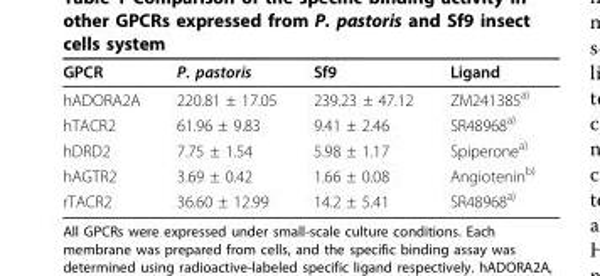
<table><thead><tr><td>GPCR</td><td>P. pastoris</td><td>Sf9</td><td>Ligand</td></tr></thead><tbody><tr><td>hADORA2A</td><td>220.81 ± 17.05</td><td>239.23 ± 47.12</td><td>ZM241385<sup>a)</sup></td></tr><tr><td>hTACR2</td><td>61.96 ± 9.83</td><td>9.41 ± 2.46</td><td>SR48968<sup>a)</sup></td></tr><tr><td>hDRD2</td><td>7.75 ± 1.54</td><td>5.98 ± 1.17</td><td>Spiperone<sup>a)</sup></td></tr><tr><td>hAGTR2</td><td>3.69 ± 0.42</td><td>1.66 ± 0.08</td><td>Angiotenin<sup>b)</sup></td></tr><tr><td>rTACR2</td><td>36.60 ± 12.99</td><td>14.2 ± 5.41</td><td>SR48968<sup>a)</sup></td></tr></tbody></table>